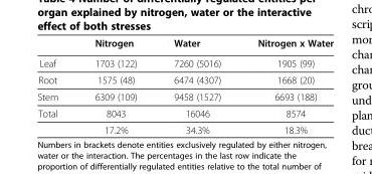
<table><thead><tr><td></td><td>Nitrogen</td><td>Water</td><td>Nitrogen x Water</td></tr></thead><tbody><tr><td>Leaf</td><td>1703 (122)</td><td>7260 (5016)</td><td>1905 (99)</td></tr><tr><td>Root</td><td>1575 (48)</td><td>6474 (4307)</td><td>1668 (20)</td></tr><tr><td>Stem</td><td>6309 (109)</td><td>9458 (1527)</td><td>6693 (188)</td></tr><tr><td rowspan="2">Total</td><td>8043</td><td>16046</td><td>8574</td></tr><tr><td>17.2%</td><td>34.3%</td><td>18.3%</td></tr></tbody></table>